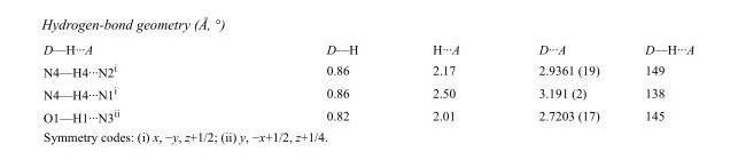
<table><tbody><tr><td>D—H···A</td><td>D—H</td><td>H···A</td><td>D···A</td><td>D—H···A</td></tr><tr><td>N4—H4···N2<sup>i</sup></td><td>0.86</td><td>2.17</td><td>2.9361 (19)</td><td>149</td></tr><tr><td>N4—H4···N1<sup>i</sup></td><td>0.86</td><td>2.50</td><td>3.191 (2)</td><td>138</td></tr><tr><td>O1—H1···N3<sup>ii</sup></td><td>0.82</td><td>2.01</td><td>2.7203 (17)</td><td>145</td></tr></tbody></table>